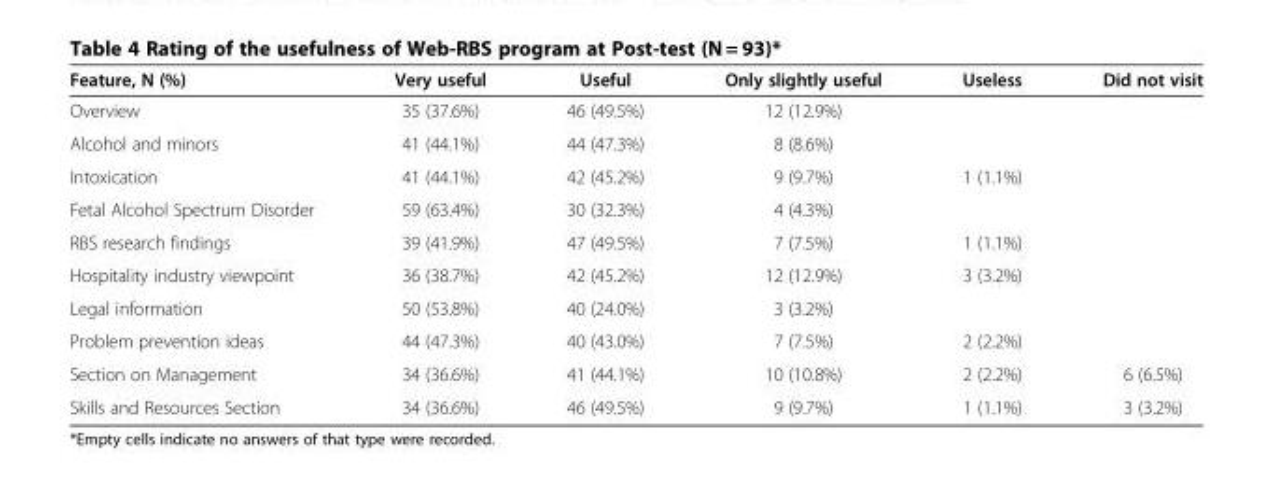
<table><thead><tr><td>Feature, N (%)</td><td>Very useful</td><td>Useful</td><td>Only slightly useful</td><td>Useless</td><td>Did not visit</td></tr></thead><tbody><tr><td>Overview</td><td>35 (37.6%)</td><td>46 (49.5%)</td><td>12 (12.9%)</td><td></td><td></td></tr><tr><td>Alcohol and minors</td><td>41 (44.1%)</td><td>44 (47.3%)</td><td>8 (8.6%)</td><td></td><td></td></tr><tr><td>Intoxication</td><td>41 (44.1%)</td><td>42 (45.2%)</td><td>9 (9.7%)</td><td>1 (1.1%)</td><td></td></tr><tr><td>Fetal Alcohol Spectrum Disorder</td><td>59 (63.4%)</td><td>30 (32.3%)</td><td>4 (4.3%)</td><td></td><td></td></tr><tr><td>RBS research findings</td><td>39 (41.9%)</td><td>47 (49.5%)</td><td>7 (7.5%)</td><td>1 (1.1%)</td><td></td></tr><tr><td>Hospitality industry viewpoint</td><td>36 (38.7%)</td><td>42 (45.2%)</td><td>12 (12.9%)</td><td>3 (3.2%)</td><td></td></tr><tr><td>Legal information</td><td>50 (53.8%)</td><td>40 (24.0%)</td><td>3 (3.2%)</td><td></td><td></td></tr><tr><td>Problem prevention ideas</td><td>44 (47.3%)</td><td>40 (43.0%)</td><td>7 (7.5%)</td><td>2 (2.2%)</td><td></td></tr><tr><td>Section on Management</td><td>34 (36.6%)</td><td>41 (44.1%)</td><td>10 (10.8%)</td><td>2 (2.2%)</td><td>6 (6.5%)</td></tr><tr><td>Skills and Resources Section</td><td>34 (36.6%)</td><td>46 (49.5%)</td><td>9 (9.7%)</td><td>1 (1.1%)</td><td>3 (3.2%)</td></tr></tbody></table>